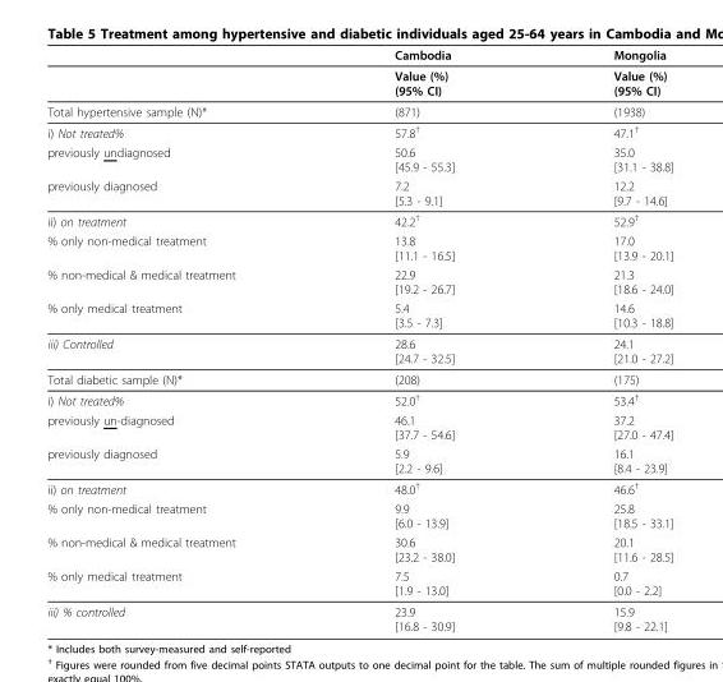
<table><thead><tr><td></td><td>Cambodia</td><td>Mongolia</td></tr></thead><tbody><tr><td></td><td>Value (%) (95% CI)</td><td>Value (%) (95% CI)</td></tr><tr><td>Total hypertensive sample (N)*</td><td>(871)</td><td>(1938)</td></tr><tr><td>i) Not treated%</td><td>57.8<sup>†</sup></td><td>47.1<sup>†</sup></td></tr><tr><td>previously undiagnosed</td><td>50.6 [45.9 - 55.3]</td><td>35.0 [31.1 - 38.8]</td></tr><tr><td>previously diagnosed</td><td>7.2 [5.3 - 9.1]</td><td>12.2 [9.7 - 14.6]</td></tr><tr><td>ii) on treatment</td><td>42.2<sup>†</sup></td><td>52.9<sup>†</sup></td></tr><tr><td>% only non-medical treatment</td><td>13.8 [11.1 - 16.5]</td><td>17.0 [13.9 - 20.1]</td></tr><tr><td>% non-medical &amp; medical treatment</td><td>22.9 [19.2 - 26.7]</td><td>21.3 [18.6 - 24.0]</td></tr><tr><td>% only medical treatment</td><td>5.4 [3.5 - 7.3]</td><td>14.6 [10.3 - 18.8]</td></tr><tr><td>iii) Controlled</td><td>28.6 [24.7 - 32.5]</td><td>24.1 [21.0 - 27.2]</td></tr><tr><td>Total diabetic sample (N)*</td><td>(208)</td><td>(175)</td></tr><tr><td>i) Not treated%</td><td>52.0<sup>†</sup></td><td>53.4<sup>†</sup></td></tr><tr><td>previously un-diagnosed</td><td>46.1 [37.7 - 54.6]</td><td>37.2 [27.0 - 47.4]</td></tr><tr><td>previously diagnosed</td><td>5.9 [2.2 - 9.6]</td><td>16.1 [8.4 - 23.9]</td></tr><tr><td>ii) on treatment</td><td>48.0<sup>†</sup></td><td>46.6<sup>†</sup></td></tr><tr><td>% only non-medical treatment</td><td>9.9 [6.0 - 13.9]</td><td>25.8 [18.5 - 33.1]</td></tr><tr><td>% non-medical &amp; medical treatment</td><td>30.6 [23.2 - 38.0]</td><td>20.1 [11.6 - 28.5]</td></tr><tr><td>% only medical treatment</td><td>7.5 [1.9 - 13.0]</td><td>0.7 [0.0 - 2.2]</td></tr><tr><td>iii) % controlled</td><td>23.9 [16.8 - 30.9]</td><td>15.9 [9.8 - 22.1]</td></tr></tbody></table>